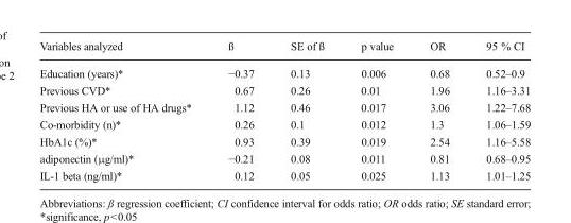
<table><thead><tr><td>Variables analyzed</td><td>ß</td><td>SE of ß</td><td>p value</td><td>OR</td><td>95 % CI</td></tr></thead><tbody><tr><td>Education (years)*</td><td>−0.37</td><td>0.13</td><td>0.006</td><td>0.68</td><td>0.52–0.9</td></tr><tr><td>Previous CVD*</td><td>0.67</td><td>0.26</td><td>0.01</td><td>1.96</td><td>1.16–3.31</td></tr><tr><td>Previous HA or use of HA drugs*</td><td>1.12</td><td>0.46</td><td>0.017</td><td>3.06</td><td>1.22–7.68</td></tr><tr><td>Co-morbidity (n)*</td><td>0.26</td><td>0.1</td><td>0.012</td><td>1.3</td><td>1.06–1.59</td></tr><tr><td>HbA1c (%)*</td><td>0.93</td><td>0.39</td><td>0.019</td><td>2.54</td><td>1.16–5.58</td></tr><tr><td>adiponectin (μg/ml)*</td><td>−0.21</td><td>0.08</td><td>0.011</td><td>0.81</td><td>0.68–0.95</td></tr><tr><td>IL-1 beta (ng/ml)*</td><td>0.12</td><td>0.05</td><td>0.025</td><td>1.13</td><td>1.01–1.25</td></tr></tbody></table>